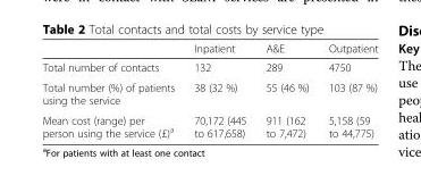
<table><thead><tr><td></td><td>Inpatient</td><td>A&amp;E</td><td>Outpatient</td></tr></thead><tbody><tr><td>Total number of contacts</td><td>132</td><td>289</td><td>4750</td></tr><tr><td>Total number (%) of patients using the service</td><td>38 (32 %)</td><td>55 (46 %)</td><td>103 (87 %)</td></tr><tr><td>Mean cost (range) per person using the service (£)<sup>a</sup></td><td>70,172 (445 to 617,658)</td><td>911 (162 to 7,472)</td><td>5,158 (59 to 44,775)</td></tr></tbody></table>